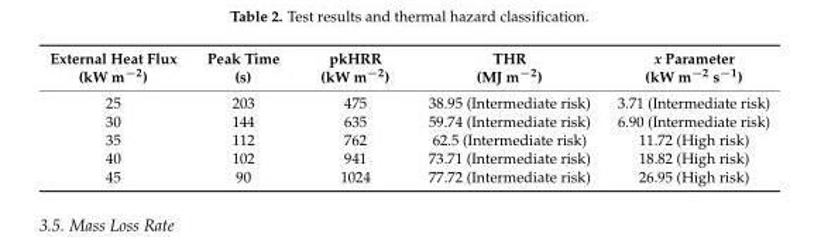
<table><thead><tr><td>External Heat Flux (kW m<sup>−2</sup>)</td><td>Peak Time (s)</td><td>pkHRR (kW m<sup>−2</sup>)</td><td>THR (MJ m<sup>−2</sup>)</td><td>x Parameter (kW m<sup>−2</sup> s<sup>−1</sup>)</td></tr></thead><tbody><tr><td>25</td><td>203</td><td>475</td><td>38.95 (Intermediate risk)</td><td>3.71 (Intermediate risk)</td></tr><tr><td>30</td><td>144</td><td>635</td><td>59.74 (Intermediate risk)</td><td>6.90 (Intermediate risk)</td></tr><tr><td>35</td><td>112</td><td>762</td><td>62.5 (Intermediate risk)</td><td>11.72 (High risk)</td></tr><tr><td>40</td><td>102</td><td>941</td><td>73.71 (Intermediate risk)</td><td>18.82 (High risk)</td></tr><tr><td>45</td><td>90</td><td>1024</td><td>77.72 (Intermediate risk)</td><td>26.95 (High risk)</td></tr></tbody></table>